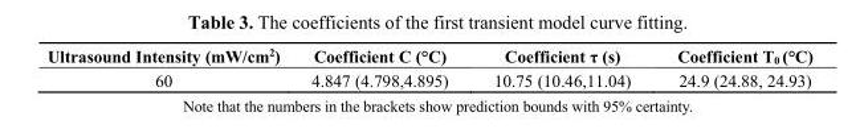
<table><thead><tr><td>Ultrasound Intensity (mW/cm<sup>2</sup>)</td><td>Coefficient C (°C)</td><td>Coefficient τ (s)</td><td>Coefficient T<sub>0</sub> (°C)</td></tr></thead><tbody><tr><td>60</td><td>4.847 (4.798,4.895)</td><td>10.75 (10.46,11.04)</td><td>24.9 (24.88, 24.93)</td></tr></tbody></table>